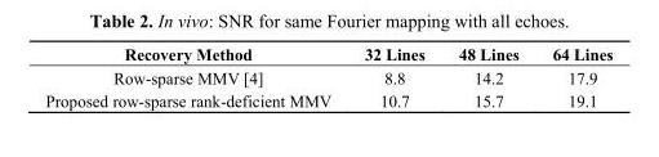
<table><thead><tr><td>Recovery Method</td><td>32 Lines</td><td>48 Lines</td><td>64 Lines</td></tr></thead><tbody><tr><td>Row-sparse MMV [4]</td><td>8.8</td><td>14.2</td><td>17.9</td></tr><tr><td>Proposed row-sparse rank-deficient MMV</td><td>10.7</td><td>15.7</td><td>19.1</td></tr></tbody></table>